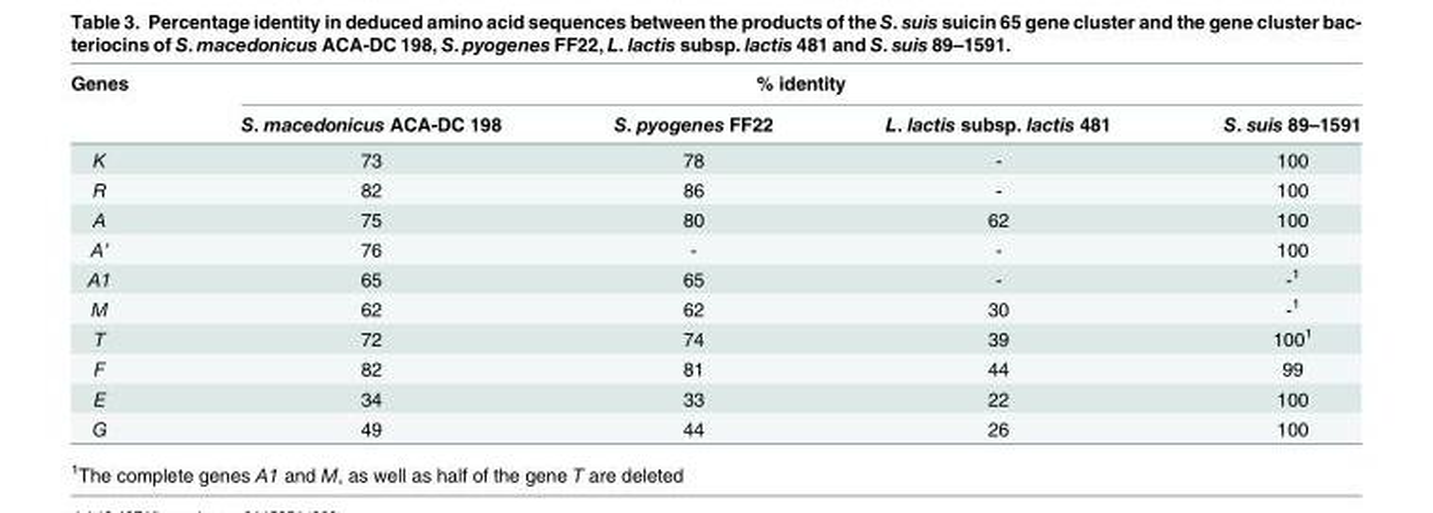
<table><thead><tr><td rowspan="2">Genes</td><td colspan="4">% identity</td></tr><tr><td>S. macedonicus ACA-DC 198</td><td>S. pyogenes FF22</td><td>L. lactis subsp. lactis 481</td><td>S. suis 89–1591</td></tr></thead><tbody><tr><td>K</td><td>73</td><td>78</td><td>-</td><td>100</td></tr><tr><td>R</td><td>82</td><td>86</td><td>-</td><td>100</td></tr><tr><td>A</td><td>75</td><td>80</td><td>62</td><td>100</td></tr><tr><td>A’</td><td>76</td><td>-</td><td>-</td><td>100</td></tr><tr><td>A1</td><td>65</td><td>65</td><td>-</td><td>-<sup>1</sup></td></tr><tr><td>M</td><td>62</td><td>62</td><td>30</td><td>-<sup>1</sup></td></tr><tr><td>T</td><td>72</td><td>74</td><td>39</td><td>100<sup>1</sup></td></tr><tr><td>F</td><td>82</td><td>81</td><td>44</td><td>99</td></tr><tr><td>E</td><td>34</td><td>33</td><td>22</td><td>100</td></tr><tr><td>G</td><td>49</td><td>44</td><td>26</td><td>100</td></tr></tbody></table>